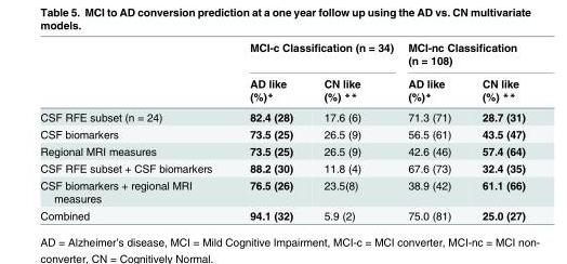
<table><thead><tr><td rowspan="2"></td><td colspan="2">MCI-c Classification (n = 34)</td><td colspan="2">MCI-nc Classification (n = 108)</td></tr><tr><td>AD like (%)*</td><td>CN like (%) **</td><td>AD like (%)*</td><td>CN like (%) **</td></tr></thead><tbody><tr><td>CSF RFE subset (n = 24)</td><td>82.4 (28)</td><td>17.6 (6)</td><td>71.3 (71)</td><td>28.7 (31)</td></tr><tr><td>CSF biomarkers</td><td>73.5 (25)</td><td>26.5 (9)</td><td>56.5 (61)</td><td>43.5 (47)</td></tr><tr><td>Regional MRI measures</td><td>73.5 (25)</td><td>26.5 (9)</td><td>42.6 (46)</td><td>57.4 (64)</td></tr><tr><td>CSF RFE subset + CSF biomarkers</td><td>88.2 (30)</td><td>11.8 (4)</td><td>67.6 (73)</td><td>32.4 (35)</td></tr><tr><td>CSF biomarkers + regional MRI measures</td><td>76.5 (26)</td><td>23.5(8)</td><td>38.9 (42)</td><td>61.1 (66)</td></tr><tr><td>Combined</td><td>94.1 (32)</td><td>5.9 (2)</td><td>75.0 (81)</td><td>25.0 (27)</td></tr></tbody></table>